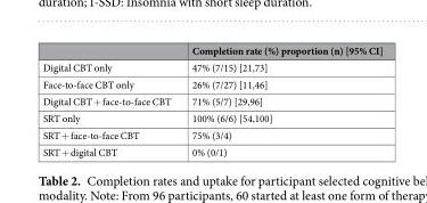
<table><thead><tr><td></td><td>Completion rate (%) proportion (n) [95% CI]</td></tr></thead><tbody><tr><td>Digital CBT only</td><td>47% (7/15) [21,73]</td></tr><tr><td>Face-to-face CBT only</td><td>26% (7/27) [11,46]</td></tr><tr><td>Digital CBT + face-to-face CBT</td><td>71% (5/7) [29,96]</td></tr><tr><td>SRT only</td><td>100% (6/6) [54,100]</td></tr><tr><td>SRT + face-to-face CBT</td><td>75% (3/4)</td></tr><tr><td>SRT + digital CBT</td><td>0% (0/1)</td></tr></tbody></table>